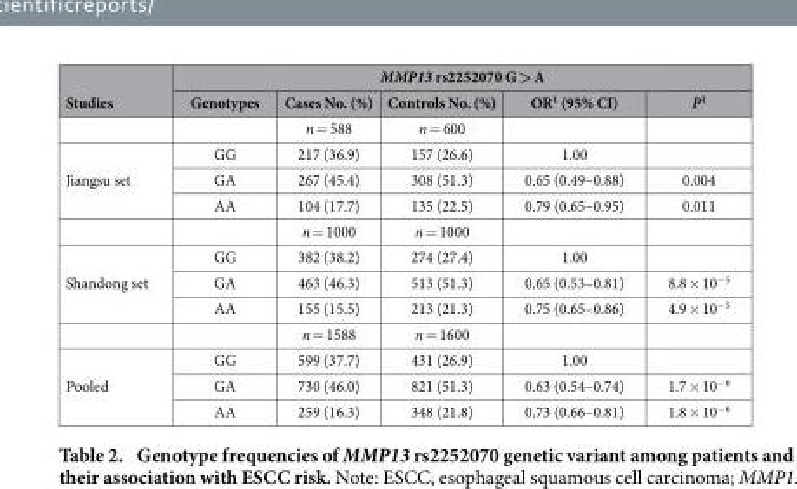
<table><thead><tr><td rowspan="2">Studies</td><td colspan="5">MMP13 rs2252070 G &gt; A</td></tr><tr><td>Genotypes</td><td>Cases No. (%)</td><td>Controls No. (%)</td><td>OR<sup>1</sup> (95% CI)</td><td>P<sup>1</sup></td></tr></thead><tbody><tr><td></td><td></td><td>n = 588</td><td>n = 600</td><td></td><td></td></tr><tr><td rowspan="4">Jiangsu set</td><td>GG</td><td>217 (36.9)</td><td>157 (26.6)</td><td>1.00</td><td></td></tr><tr><td>GA</td><td>267 (45.4)</td><td>308 (51.3)</td><td>0.65 (0.49–0.88)</td><td>0.004</td></tr><tr><td>AA</td><td>104 (17.7)</td><td>135 (22.5)</td><td>0.79 (0.65–0.95)</td><td>0.011</td></tr><tr><td></td><td>n = 1000</td><td>n = 1000</td><td></td><td></td></tr><tr><td rowspan="4">Shandong set</td><td>GG</td><td>382 (38.2)</td><td>274 (27.4)</td><td>1.00</td><td></td></tr><tr><td>GA</td><td>463 (46.3)</td><td>513 (51.3)</td><td>0.65 (0.53–0.81)</td><td>8.8 × 10<sup>−5</sup></td></tr><tr><td>AA</td><td>155 (15.5)</td><td>213 (21.3)</td><td>0.75 (0.65–0.86)</td><td>4.9 × 10<sup>−5</sup></td></tr><tr><td></td><td>n = 1588</td><td>n = 1600</td><td></td><td></td></tr><tr><td rowspan="3">Pooled</td><td>GG</td><td>599 (37.7)</td><td>431 (26.9)</td><td>1.00</td><td></td></tr><tr><td>GA</td><td>730 (46.0)</td><td>821 (51.3)</td><td>0.63 (0.54–0.74)</td><td>1.7 × 10<sup>−6</sup></td></tr><tr><td>AA</td><td>259 (16.3)</td><td>348 (21.8)</td><td>0.73 (0.66–0.81)</td><td>1.8 × 10<sup>−6</sup></td></tr></tbody></table>